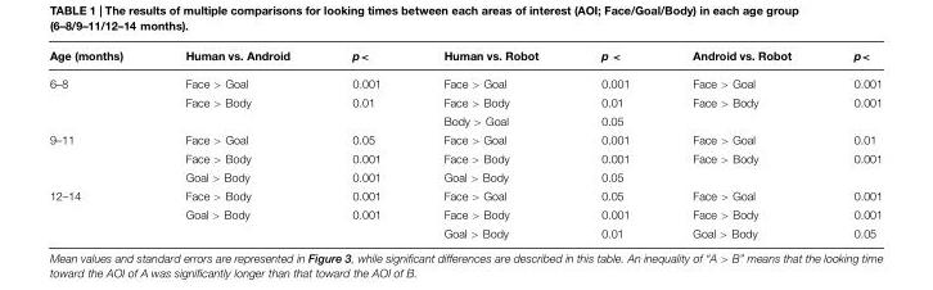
<table><thead><tr><td>Age (months)</td><td>Human vs. Android</td><td>p&lt;</td><td>Human vs. Robot</td><td>p &lt;</td><td>Android vs. Robot</td><td>p&lt;</td></tr></thead><tbody><tr><td rowspan="3">6–8</td><td>Face &gt; Goal</td><td>0.001</td><td>Face &gt; Goal</td><td>0.001</td><td>Face &gt; Goal</td><td>0.001</td></tr><tr><td>Face &gt; Body</td><td>0.01</td><td>Face &gt; Body</td><td>0.01</td><td>Face &gt; Body</td><td>0.001</td></tr><tr><td></td><td></td><td>Body &gt; Goal</td><td>0.05</td><td></td><td></td></tr><tr><td rowspan="3">9–11</td><td>Face &gt; Goal</td><td>0.05</td><td>Face &gt; Goal</td><td>0.001</td><td>Face &gt; Goal</td><td>0.01</td></tr><tr><td>Face &gt; Body</td><td>0.001</td><td>Face &gt; Body</td><td>0.001</td><td>Face &gt; Body</td><td>0.001</td></tr><tr><td>Goal &gt; Body</td><td>0.001</td><td>Goal &gt; Body</td><td>0.05</td><td></td><td></td></tr><tr><td rowspan="3">12–14</td><td>Face &gt; Body</td><td>0.001</td><td>Face &gt; Goal</td><td>0.05</td><td>Face &gt; Goal</td><td>0.001</td></tr><tr><td>Goal &gt; Body</td><td>0.001</td><td>Face &gt; Body</td><td>0.001</td><td>Face &gt; Body</td><td>0.001</td></tr><tr><td></td><td></td><td>Goal &gt; Body</td><td>0.01</td><td>Goal &gt; Body</td><td>0.05</td></tr></tbody></table>